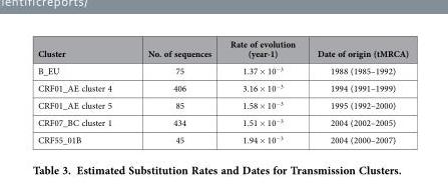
<table><thead><tr><td>Cluster</td><td>No. of sequences</td><td>Rate of evolution (year-1)</td><td>Date of origin (tMRCA)</td></tr></thead><tbody><tr><td>B_EU</td><td>75</td><td>1.37 × 10<sup>−3</sup></td><td>1988 (1985–1992)</td></tr><tr><td>CRF01_AE cluster 4</td><td>406</td><td>3.16 × 10<sup>−3</sup></td><td>1994 (1991–1999)</td></tr><tr><td>CRF01_AE cluster 5</td><td>85</td><td>1.58 × 10<sup>−3</sup></td><td>1995 (1992–2000)</td></tr><tr><td>CRF07_BC cluster 1</td><td>434</td><td>1.51 × 10<sup>−3</sup></td><td>2004 (2002–2005)</td></tr><tr><td>CRF55_01B</td><td>45</td><td>1.94 × 10<sup>−3</sup></td><td>2004 (2000–2007)</td></tr></tbody></table>